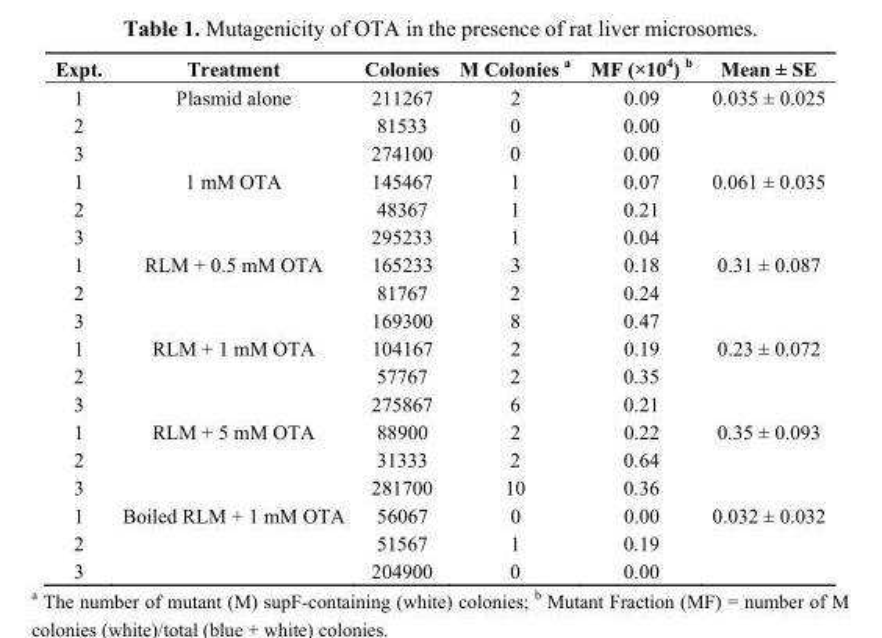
<table><thead><tr><td>Expt.</td><td>Treatment</td><td>Colonies</td><td>M Colonies <sup>a</sup></td><td>MF (×10<sup>4</sup>) <sup>b</sup></td><td>Mean ± SE</td></tr></thead><tbody><tr><td>1</td><td>Plasmid alone</td><td>211267</td><td>2</td><td>0.09</td><td>0.035 ± 0.025</td></tr><tr><td>2</td><td></td><td>81533</td><td>0</td><td>0.00</td><td></td></tr><tr><td>3</td><td></td><td>274100</td><td>0</td><td>0.00</td><td></td></tr><tr><td>1</td><td>1 mM OTA</td><td>145467</td><td>1</td><td>0.07</td><td>0.061 ± 0.035</td></tr><tr><td>2</td><td></td><td>48367</td><td>1</td><td>0.21</td><td></td></tr><tr><td>3</td><td></td><td>295233</td><td>1</td><td>0.04</td><td></td></tr><tr><td>1</td><td>RLM + 0.5 mM OTA</td><td>165233</td><td>3</td><td>0.18</td><td>0.31 ± 0.087</td></tr><tr><td>2</td><td></td><td>81767</td><td>2</td><td>0.24</td><td></td></tr><tr><td>3</td><td></td><td>169300</td><td>8</td><td>0.47</td><td></td></tr><tr><td>1</td><td>RLM + 1 mM OTA</td><td>104167</td><td>2</td><td>0.19</td><td>0.23 ± 0.072</td></tr><tr><td>2</td><td></td><td>57767</td><td>2</td><td>0.35</td><td></td></tr><tr><td>3</td><td></td><td>275867</td><td>6</td><td>0.21</td><td></td></tr><tr><td>1</td><td>RLM + 5 mM OTA</td><td>88900</td><td>2</td><td>0.22</td><td>0.35 ± 0.093</td></tr><tr><td>2</td><td></td><td>31333</td><td>2</td><td>0.64</td><td></td></tr><tr><td>3</td><td></td><td>281700</td><td>10</td><td>0.36</td><td></td></tr><tr><td>1</td><td>Boiled RLM + 1 mM OTA</td><td>56067</td><td>0</td><td>0.00</td><td>0.032 ± 0.032</td></tr><tr><td>2</td><td></td><td>51567</td><td>1</td><td>0.19</td><td></td></tr><tr><td>3</td><td></td><td>204900</td><td>0</td><td>0.00</td><td></td></tr></tbody></table>